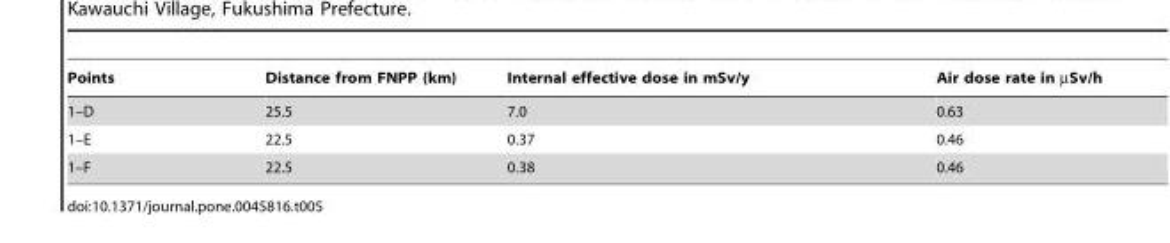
<table><thead><tr><td>Points</td><td>Distance from FNPP (km)</td><td>Internal effective dose in mSv/y</td><td>Air dose rate in µSv/h</td></tr></thead><tbody><tr><td>1–D</td><td>25.5</td><td>7.0</td><td>0.63</td></tr><tr><td>1–E</td><td>22.5</td><td>0.37</td><td>0.46</td></tr><tr><td>1–F</td><td>22.5</td><td>0.38</td><td>0.46</td></tr></tbody></table>